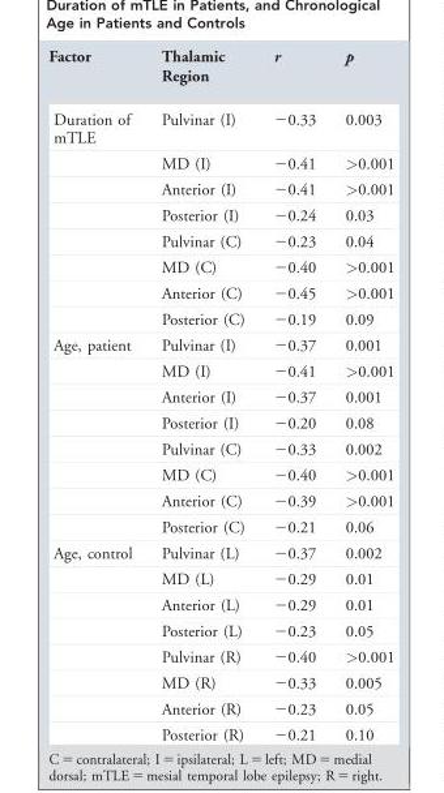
<table><thead><tr><td>Factor</td><td>Thalamic Region</td><td>r</td><td>p</td></tr></thead><tbody><tr><td rowspan="8">Duration of mTLE</td><td>Pulvinar (I)</td><td>−0.33</td><td>0.003</td></tr><tr><td>MD (I)</td><td>−0.41</td><td>&gt;0.001</td></tr><tr><td>Anterior (I)</td><td>−0.41</td><td>&gt;0.001</td></tr><tr><td>Posterior (I)</td><td>−0.24</td><td>0.03</td></tr><tr><td>Pulvinar (C)</td><td>−0.23</td><td>0.04</td></tr><tr><td>MD (C)</td><td>−0.40</td><td>&gt;0.001</td></tr><tr><td>Anterior (C)</td><td>−0.45</td><td>&gt;0.001</td></tr><tr><td>Posterior (C)</td><td>−0.19</td><td>0.09</td></tr><tr><td rowspan="8">Age, patient</td><td>Pulvinar (I)</td><td>−0.37</td><td>0.001</td></tr><tr><td>MD (I)</td><td>−0.41</td><td>&gt;0.001</td></tr><tr><td>Anterior (I)</td><td>−0.37</td><td>0.001</td></tr><tr><td>Posterior (I)</td><td>−0.20</td><td>0.08</td></tr><tr><td>Pulvinar (C)</td><td>−0.33</td><td>0.002</td></tr><tr><td>MD (C)</td><td>−0.40</td><td>&gt;0.001</td></tr><tr><td>Anterior (C)</td><td>−0.39</td><td>&gt;0.001</td></tr><tr><td>Posterior (C)</td><td>−0.21</td><td>0.06</td></tr><tr><td rowspan="8">Age, control</td><td>Pulvinar (L)</td><td>−0.37</td><td>0.002</td></tr><tr><td>MD (L)</td><td>−0.29</td><td>0.01</td></tr><tr><td>Anterior (L)</td><td>−0.29</td><td>0.01</td></tr><tr><td>Posterior (L)</td><td>−0.23</td><td>0.05</td></tr><tr><td>Pulvinar (R)</td><td>−0.40</td><td>&gt;0.001</td></tr><tr><td>MD (R)</td><td>−0.33</td><td>0.005</td></tr><tr><td>Anterior (R)</td><td>−0.23</td><td>0.05</td></tr><tr><td>Posterior (R)</td><td>−0.21</td><td>0.10</td></tr></tbody></table>